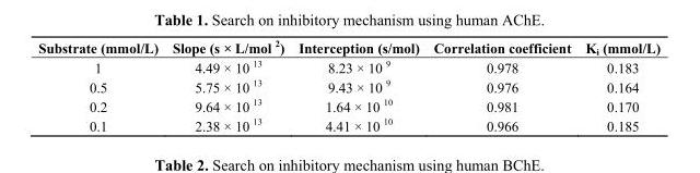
<table><thead><tr><td>Substrate (mmol/L)</td><td>Slope (s × L/mol <sup>2</sup>)</td><td>Interception (s/mol)</td><td>Correlation coefficient</td><td>K<sub>i</sub> (mmol/L)</td></tr></thead><tbody><tr><td>1</td><td>4.49 × 10 <sup>13</sup></td><td>8.23 × 10 <sup>9</sup></td><td>0.978</td><td>0.183</td></tr><tr><td>0.5</td><td>5.75 × 10 <sup>13</sup></td><td>9.43 × 10 <sup>9</sup></td><td>0.976</td><td>0.164</td></tr><tr><td>0.2</td><td>9.64 × 10 <sup>13</sup></td><td>1.64 × 10 <sup>10</sup></td><td>0.981</td><td>0.170</td></tr><tr><td>0.1</td><td>2.38 × 10 <sup>13</sup></td><td>4.41 × 10 <sup>10</sup></td><td>0.966</td><td>0.185</td></tr></tbody></table>